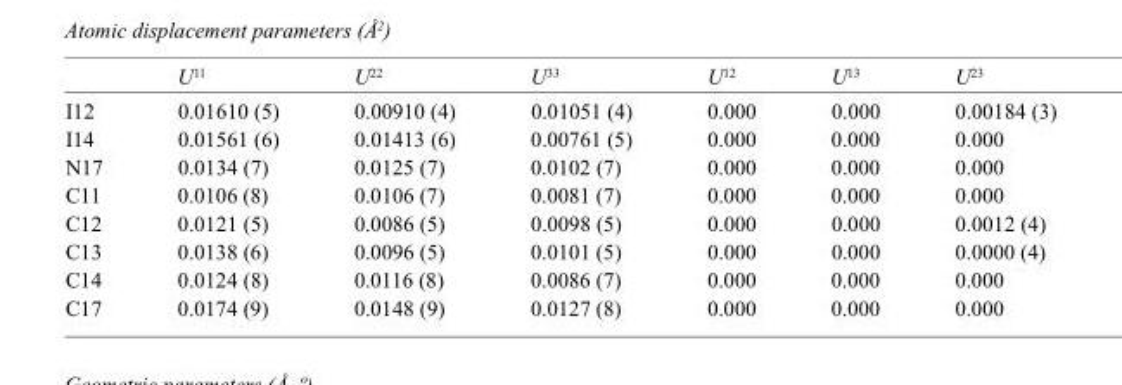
<table><thead><tr><td></td><td>U<sup>11</sup></td><td>U<sup>22</sup></td><td>U<sup>33</sup></td><td>U<sup>12</sup></td><td>U<sup>13</sup></td><td>U<sup>23</sup></td></tr></thead><tbody><tr><td>I12</td><td>0.01610 (5)</td><td>0.00910 (4)</td><td>0.01051 (4)</td><td>0.000</td><td>0.000</td><td>0.00184 (3)</td></tr><tr><td>I14</td><td>0.01561 (6)</td><td>0.01413 (6)</td><td>0.00761 (5)</td><td>0.000</td><td>0.000</td><td>0.000</td></tr><tr><td>N17</td><td>0.0134 (7)</td><td>0.0125 (7)</td><td>0.0102 (7)</td><td>0.000</td><td>0.000</td><td>0.000</td></tr><tr><td>C11</td><td>0.0106 (8)</td><td>0.0106 (7)</td><td>0.0081 (7)</td><td>0.000</td><td>0.000</td><td>0.000</td></tr><tr><td>C12</td><td>0.0121 (5)</td><td>0.0086 (5)</td><td>0.0098 (5)</td><td>0.000</td><td>0.000</td><td>0.0012 (4)</td></tr><tr><td>C13</td><td>0.0138 (6)</td><td>0.0096 (5)</td><td>0.0101 (5)</td><td>0.000</td><td>0.000</td><td>0.0000 (4)</td></tr><tr><td>C14</td><td>0.0124 (8)</td><td>0.0116 (8)</td><td>0.0086 (7)</td><td>0.000</td><td>0.000</td><td>0.000</td></tr><tr><td>C17</td><td>0.0174 (9)</td><td>0.0148 (9)</td><td>0.0127 (8)</td><td>0.000</td><td>0.000</td><td>0.000</td></tr></tbody></table>